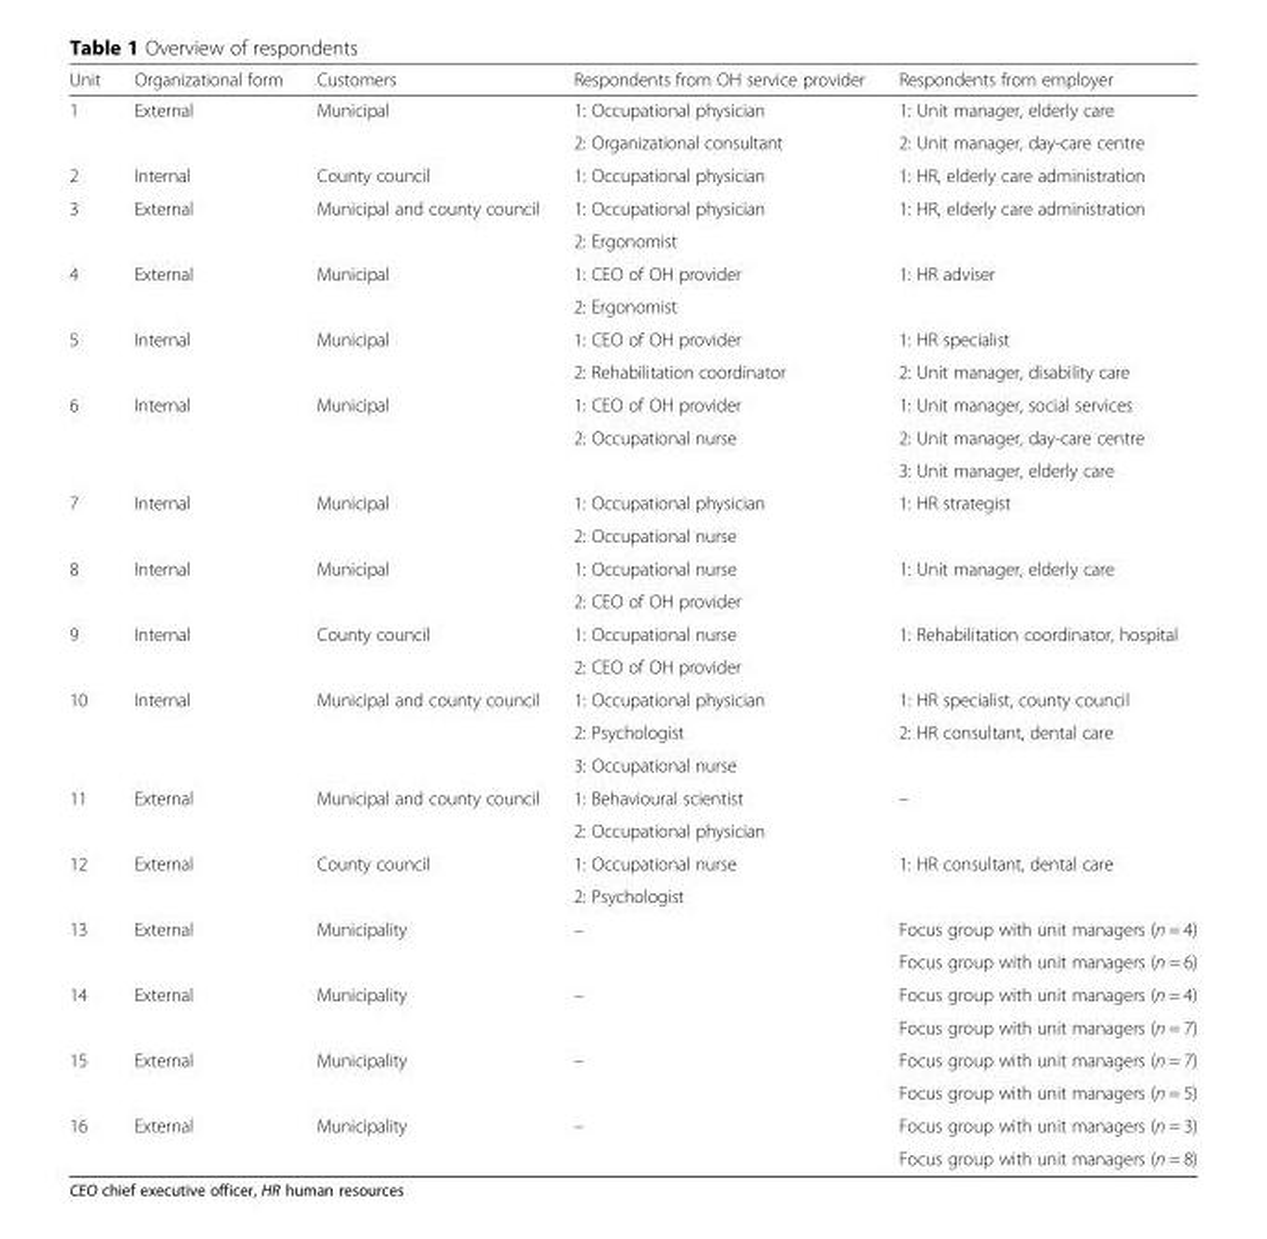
<table><thead><tr><td>Unit</td><td>Organizational form</td><td>Customers</td><td>Respondents from OH service provider</td><td>Respondents from employer</td></tr></thead><tbody><tr><td rowspan="2">1</td><td rowspan="2">External</td><td rowspan="2">Municipal</td><td>1: Occupational physician</td><td>1: Unit manager, elderly care</td></tr><tr><td>2: Organizational consultant</td><td>2: Unit manager, day-care centre</td></tr><tr><td>2</td><td>Internal</td><td>County council</td><td>1: Occupational physician</td><td>1: HR, elderly care administration</td></tr><tr><td rowspan="2">3</td><td rowspan="2">External</td><td rowspan="2">Municipal and county council</td><td>1: Occupational physician</td><td>1: HR, elderly care administration</td></tr><tr><td>2: Ergonomist</td><td></td></tr><tr><td rowspan="2">4</td><td rowspan="2">External</td><td rowspan="2">Municipal</td><td>1: CEO of OH provider</td><td>1: HR adviser</td></tr><tr><td>2: Ergonomist</td><td></td></tr><tr><td rowspan="2">5</td><td rowspan="2">Internal</td><td rowspan="2">Municipal</td><td>1: CEO of OH provider</td><td>1: HR specialist</td></tr><tr><td>2: Rehabilitation coordinator</td><td>2: Unit manager, disability care</td></tr><tr><td rowspan="3">6</td><td rowspan="3">Internal</td><td rowspan="3">Municipal</td><td>1: CEO of OH provider</td><td>1: Unit manager, social services</td></tr><tr><td>2: Occupational nurse</td><td>2: Unit manager, day-care centre</td></tr><tr><td></td><td>3: Unit manager, elderly care</td></tr><tr><td rowspan="2">7</td><td rowspan="2">Internal</td><td rowspan="2">Municipal</td><td>1: Occupational physician</td><td>1: HR strategist</td></tr><tr><td>2: Occupational nurse</td><td></td></tr><tr><td rowspan="2">8</td><td rowspan="2">Internal</td><td rowspan="2">Municipal</td><td>1: Occupational nurse</td><td>1: Unit manager, elderly care</td></tr><tr><td>2: CEO of OH provider</td><td></td></tr><tr><td rowspan="2">9</td><td rowspan="2">Internal</td><td rowspan="2">County council</td><td>1: Occupational nurse</td><td>1: Rehabilitation coordinator, hospital</td></tr><tr><td>2: CEO of OH provider</td><td></td></tr><tr><td rowspan="3">10</td><td rowspan="3">Internal</td><td rowspan="3">Municipal and county council</td><td>1: Occupational physician</td><td>1: HR specialist, county council</td></tr><tr><td>2: Psychologist</td><td>2: HR consultant, dental care</td></tr><tr><td>3: Occupational nurse</td><td></td></tr><tr><td rowspan="2">11</td><td rowspan="2">External</td><td rowspan="2">Municipal and county council</td><td>1: Behavioural scientist</td><td>–</td></tr><tr><td>2: Occupational physician</td><td></td></tr><tr><td rowspan="2">12</td><td rowspan="2">External</td><td rowspan="2">County council</td><td>1: Occupational nurse</td><td>1: HR consultant, dental care</td></tr><tr><td>2: Psychologist</td><td></td></tr><tr><td rowspan="2">13</td><td rowspan="2">External</td><td rowspan="2">Municipality</td><td rowspan="2">–</td><td>Focus group with unit managers (n = 4)</td></tr><tr><td>Focus group with unit managers (n = 6)</td></tr><tr><td rowspan="2">14</td><td rowspan="2">External</td><td rowspan="2">Municipality</td><td rowspan="2">–</td><td>Focus group with unit managers (n = 4)</td></tr><tr><td>Focus group with unit managers (n = 7)</td></tr><tr><td rowspan="2">15</td><td rowspan="2">External</td><td rowspan="2">Municipality</td><td rowspan="2">–</td><td>Focus group with unit managers (n = 7)</td></tr><tr><td>Focus group with unit managers (n = 5)</td></tr><tr><td rowspan="2">16</td><td rowspan="2">External</td><td rowspan="2">Municipality</td><td rowspan="2">–</td><td>Focus group with unit managers (n = 3)</td></tr><tr><td>Focus group with unit managers (n = 8)</td></tr></tbody></table>